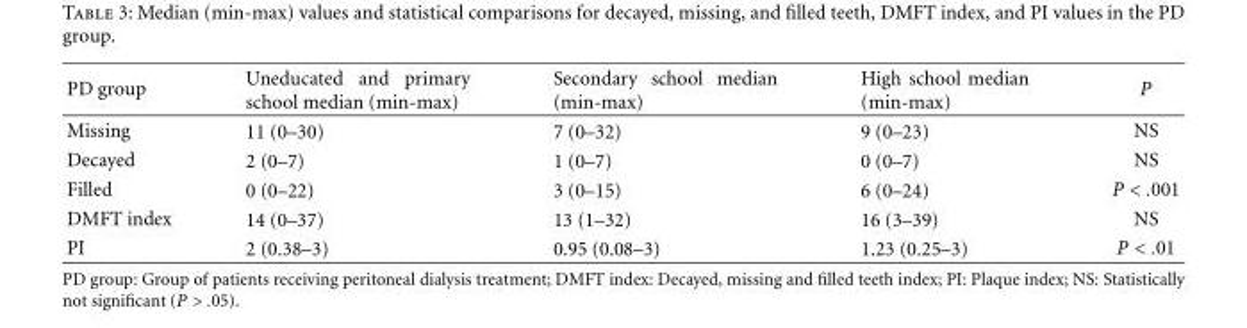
<table><thead><tr><td>PD group</td><td>Uneducated and primary school median (min-max)</td><td>Secondary school median (min-max)</td><td>High school median (min-max)</td><td>P</td></tr></thead><tbody><tr><td>Missing</td><td>11 (0–30)</td><td>7 (0–32)</td><td>9 (0–23)</td><td>NS</td></tr><tr><td>Decayed</td><td>2 (0–7)</td><td>1 (0–7)</td><td>0 (0–7)</td><td>NS</td></tr><tr><td>Filled</td><td>0 (0–22)</td><td>3 (0–15)</td><td>6 (0–24)</td><td>P &lt; .001</td></tr><tr><td>DMFT index</td><td>14 (0–37)</td><td>13 (1–32)</td><td>16 (3–39)</td><td>NS</td></tr><tr><td>PI</td><td>2 (0.38–3)</td><td>0.95 (0.08–3)</td><td>1.23 (0.25–3)</td><td>P &lt; .01</td></tr></tbody></table>